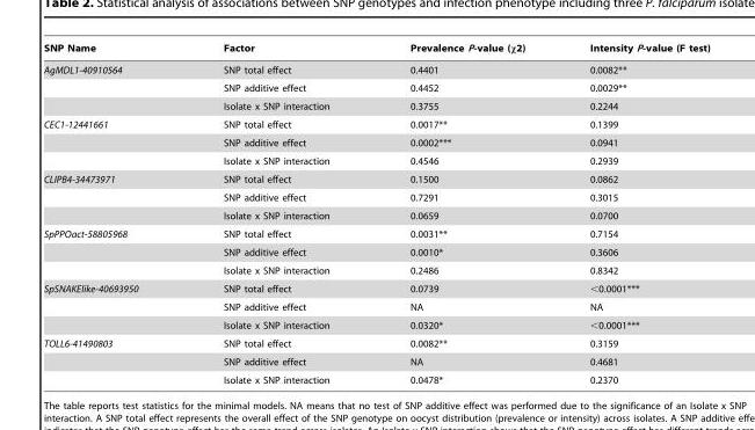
<table><thead><tr><td>SNP Name</td><td>Factor</td><td>Prevalence P-value (χ2)</td><td>Intensity P-value (F test)</td></tr></thead><tbody><tr><td rowspan="3">AgMDL1-40910564</td><td>SNP total effect</td><td>0.4401</td><td>0.0082**</td></tr><tr><td>SNP additive effect</td><td>0.4452</td><td>0.0029**</td></tr><tr><td>Isolate x SNP interaction</td><td>0.3755</td><td>0.2244</td></tr><tr><td rowspan="3">CEC1-12441661</td><td>SNP total effect</td><td>0.0017**</td><td>0.1399</td></tr><tr><td>SNP additive effect</td><td>0.0002***</td><td>0.0941</td></tr><tr><td>Isolate x SNP interaction</td><td>0.4546</td><td>0.2939</td></tr><tr><td rowspan="3">CLIPB4-34473971</td><td>SNP total effect</td><td>0.1500</td><td>0.0862</td></tr><tr><td>SNP additive effect</td><td>0.7291</td><td>0.3015</td></tr><tr><td>Isolate x SNP interaction</td><td>0.0659</td><td>0.0700</td></tr><tr><td rowspan="3">SpPPOact-58805968</td><td>SNP total effect</td><td>0.0031**</td><td>0.7154</td></tr><tr><td>SNP additive effect</td><td>0.0010*</td><td>0.3606</td></tr><tr><td>Isolate x SNP interaction</td><td>0.2486</td><td>0.8342</td></tr><tr><td rowspan="3">SpSNAKElike-40693950</td><td>SNP total effect</td><td>0.0739</td><td>&lt;0.0001***</td></tr><tr><td>SNP additive effect</td><td>NA</td><td>NA</td></tr><tr><td>Isolate x SNP interaction</td><td>0.0320*</td><td>&lt;0.0001***</td></tr><tr><td rowspan="3">TOLL6-41490803</td><td>SNP total effect</td><td>0.0082**</td><td>0.3159</td></tr><tr><td>SNP additive effect</td><td>NA</td><td>0.4681</td></tr><tr><td>Isolate x SNP interaction</td><td>0.0478*</td><td>0.2370</td></tr></tbody></table>